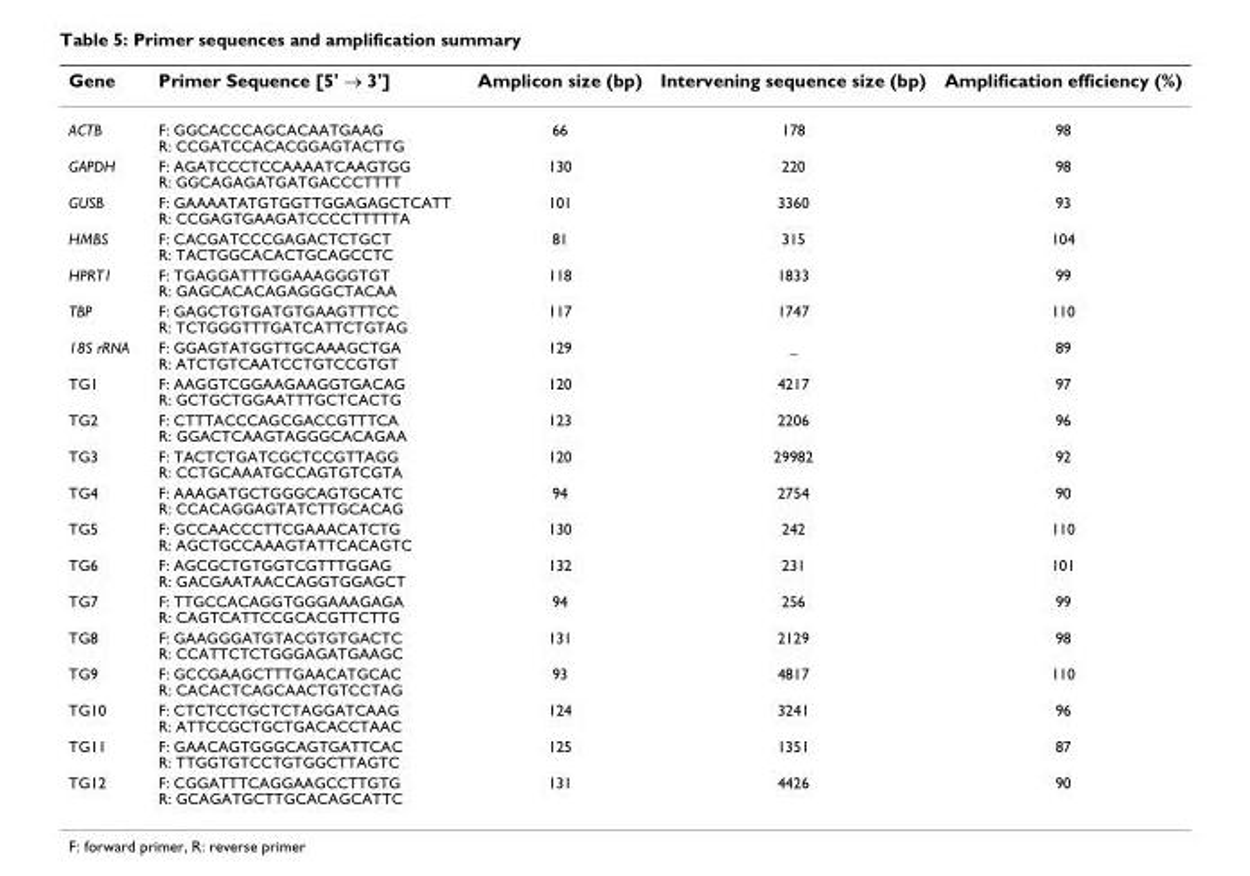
<table><thead><tr><td>Gene</td><td>Primer Sequence [5&#x27; → 3&#x27;]</td><td>Amplicon size (bp)</td><td>Intervening sequence size (bp)</td><td>Amplification efficiency (%)</td></tr></thead><tbody><tr><td>ACTB</td><td>F: GGCACCCAGCACAATGAAG R: CCGATCCACACGGAGTACTTG</td><td>66</td><td>178</td><td>98</td></tr><tr><td>GAPDH</td><td>F: AGATCCCTCCAAAATCAAGTGG R: GGCAGAGATGATGACCCTTTT</td><td>130</td><td>220</td><td>98</td></tr><tr><td>GUSB</td><td>F: GAAAATATGTGGTTGGAGAGCTCATT R: CCGAGTGAAGATCCCCTTTTTA</td><td>101</td><td>3360</td><td>93</td></tr><tr><td>HMBS</td><td>F: CACGATCCCGAGACTCTGCT R: TACTGGCACACTGCAGCCTC</td><td>81</td><td>315</td><td>104</td></tr><tr><td>HPRT1</td><td>F: TGAGGATTTGGAAAGGGTGT R: GAGCACACAGAGGGCTACAA</td><td>118</td><td>1833</td><td>99</td></tr><tr><td>TBP</td><td>F: GAGCTGTGATGTGAAGTTTCC R: TCTGGGTTTGATCATTCTGTAG</td><td>117</td><td>1747</td><td>110</td></tr><tr><td>18S rRNA</td><td>F: GGAGTATGGTTGCAAAGCTGA R: ATCTGTCAATCCTGTCCGTGT</td><td>129</td><td>_</td><td>89</td></tr><tr><td>TG1</td><td>F: AAGGTCGGAAGAAGGTGACAG R: GCTGCTGGAATTTGCTCACTG</td><td>120</td><td>4217</td><td>97</td></tr><tr><td>TG2</td><td>F: CTTTACCCAGCGACCGTTTCA R: GGACTCAAGTAGGGCACAGAA</td><td>123</td><td>2206</td><td>96</td></tr><tr><td>TG3</td><td>F: TACTCTGATCGCTCCGTTAGG R: CCTGCAAATGCCAGTGTCGTA</td><td>120</td><td>29982</td><td>92</td></tr><tr><td>TG4</td><td>F: AAAGATGCTGGGCAGTGCATC R: CCACAGGAGTATCTTGCACAG</td><td>94</td><td>2754</td><td>90</td></tr><tr><td>TG5</td><td>F: GCCAACCCTTCGAAACATCTG R: AGCTGCCAAAGTATTCACAGTC</td><td>130</td><td>242</td><td>110</td></tr><tr><td>TG6</td><td>F: AGCGCTGTGGTCGTTTGGAG R: GACGAATAACCAGGTGGAGCT</td><td>132</td><td>231</td><td>101</td></tr><tr><td>TG7</td><td>F: TTGCCACAGGTGGGAAAGAGA R: CAGTCATTCCGCACGTTCTTG</td><td>94</td><td>256</td><td>99</td></tr><tr><td>TG8</td><td>F: GAAGGGATGTACGTGTGACTC R: CCATTCTCTGGGAGATGAAGC</td><td>131</td><td>2129</td><td>98</td></tr><tr><td>TG9</td><td>F: GCCGAAGCTTTGAACATGCAC R: CACACTCAGCAACTGTCCTAG</td><td>93</td><td>4817</td><td>110</td></tr><tr><td>TG10</td><td>F: CTCTCCTGCTCTAGGATCAAG R: ATTCCGCTGCTGACACCTAAC</td><td>124</td><td>3241</td><td>96</td></tr><tr><td>TG11</td><td>F: GAACAGTGGGCAGTGATTCAC R: TTGGTGTCCTGTGGCTTAGTC</td><td>125</td><td>1351</td><td>87</td></tr><tr><td>TG12</td><td>F: CGGATTTCAGGAAGCCTTGTG R: GCAGATGCTTGCACAGCATTC</td><td>131</td><td>4426</td><td>90</td></tr></tbody></table>